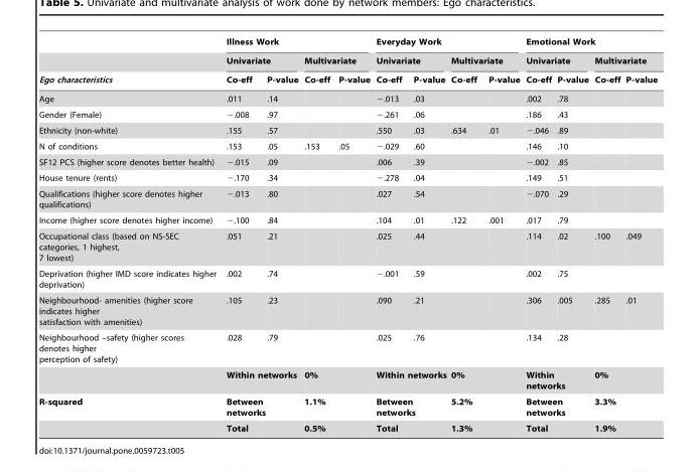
<table><thead><tr><td rowspan="3">Ego characteristics</td><td colspan="4">Illness Work</td><td colspan="4">Everyday Work</td><td colspan="4">Emotional Work</td></tr><tr><td colspan="2">Univariate</td><td colspan="2">Multivariate</td><td colspan="2">Univariate</td><td colspan="2">Multivariate</td><td colspan="2">Univariate</td><td colspan="2">Multivariate</td></tr><tr><td>Co-eff</td><td>P-value</td><td>Co-eff</td><td>P-value</td><td>Co-eff</td><td>P-value</td><td>Co-eff</td><td>P-value</td><td>Co-eff</td><td>P-value</td><td>Co-eff</td><td>P-value</td></tr></thead><tbody><tr><td>Age</td><td>.011</td><td>.14</td><td></td><td></td><td>−.013</td><td>.03</td><td></td><td></td><td>.002</td><td>.78</td><td></td><td></td></tr><tr><td>Gender (Female)</td><td>−.008</td><td>.97</td><td></td><td></td><td>−.261</td><td>.06</td><td></td><td></td><td>.186</td><td>.43</td><td></td><td></td></tr><tr><td>Ethnicity (non-white)</td><td>.155</td><td>.57</td><td></td><td></td><td>.550</td><td>.03</td><td>.634</td><td>.01</td><td>−.046</td><td>.89</td><td></td><td></td></tr><tr><td>N of conditions</td><td>.153</td><td>.05</td><td>.153</td><td>.05</td><td>−.029</td><td>.60</td><td></td><td></td><td>.146</td><td>.10</td><td></td><td></td></tr><tr><td>SF12 PCS (higher score denotes better health)</td><td>−.015</td><td>.09</td><td></td><td></td><td>.006</td><td>.39</td><td></td><td></td><td>−.002</td><td>.85</td><td></td><td></td></tr><tr><td>House tenure (rents)</td><td>−.170</td><td>.34</td><td></td><td></td><td>−.278</td><td>.04</td><td></td><td></td><td>.149</td><td>.51</td><td></td><td></td></tr><tr><td>Qualifications (higher score denotes higher qualifications)</td><td>−.013</td><td>.80</td><td></td><td></td><td>.027</td><td>.54</td><td></td><td></td><td>−.070</td><td>.29</td><td></td><td></td></tr><tr><td>Income (higher score denotes higher income)</td><td>−.100</td><td>.84</td><td></td><td></td><td>.104</td><td>.01</td><td>.122</td><td>.001</td><td>.017</td><td>.79</td><td></td><td></td></tr><tr><td>Occupational class (based on NS-SEC categories, 1 highest, 7 lowest)</td><td>.051</td><td>.21</td><td></td><td></td><td>.025</td><td>.44</td><td></td><td></td><td>.114</td><td>.02</td><td>.100</td><td>.049</td></tr><tr><td>Deprivation (higher IMD score indicates higher deprivation)</td><td>.002</td><td>.74</td><td></td><td></td><td>−.001</td><td>.59</td><td></td><td></td><td>.002</td><td>.75</td><td></td><td></td></tr><tr><td>Neighbourhood- amenities (higher score indicates higher satisfaction with amenities)</td><td>.105</td><td>.23</td><td></td><td></td><td>.090</td><td>.21</td><td></td><td></td><td>.306</td><td>.005</td><td>.285</td><td>.01</td></tr><tr><td rowspan="2">Neighbourhood –safety (higher scores denotes higher perception of safety)</td><td>.028</td><td>.79</td><td></td><td></td><td>.025</td><td>.76</td><td></td><td></td><td>.134</td><td>.28</td><td></td><td></td></tr><tr><td colspan="2">Within networks</td><td colspan="2">0%</td><td colspan="2">Within networks</td><td colspan="2">0%</td><td colspan="2">Within networks</td><td colspan="2">0%</td></tr><tr><td rowspan="2">R-squared</td><td colspan="2">Between networks</td><td colspan="2">1.1%</td><td colspan="2">Between networks</td><td colspan="2">5.2%</td><td colspan="2">Between networks</td><td colspan="2">3.3%</td></tr><tr><td colspan="2">Total</td><td colspan="2">0.5%</td><td colspan="2">Total</td><td colspan="2">1.3%</td><td colspan="2">Total</td><td colspan="2">1.9%</td></tr></tbody></table>